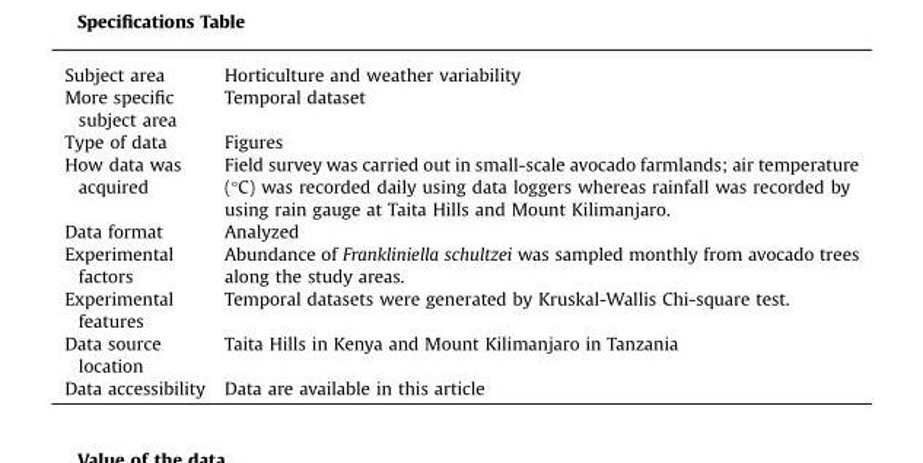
<table><tbody><tr><td>Subject area</td><td>Horticulture and weather variability</td></tr><tr><td>More specific subject area</td><td>Temporal dataset</td></tr><tr><td>Type of data</td><td>Figures</td></tr><tr><td>How data was acquired</td><td>Field survey was carried out in small-scale avocado farmlands; air temperature (°C) was recorded daily using data loggers whereas rainfall was recorded by using rain gauge at Taita Hills and Mount Kilimanjaro.</td></tr><tr><td>Data format</td><td>Analyzed</td></tr><tr><td>Experimental factors</td><td>Abundance of Frankliniella schultzei was sampled monthly from avocado trees along the study areas.</td></tr><tr><td>Experimental features</td><td>Temporal datasets were generated by Kruskal-Wallis Chi-square test.</td></tr><tr><td>Data source location</td><td>Taita Hills in Kenya and Mount Kilimanjaro in Tanzania</td></tr><tr><td>Data accessibility</td><td>Data are available in this article</td></tr></tbody></table>